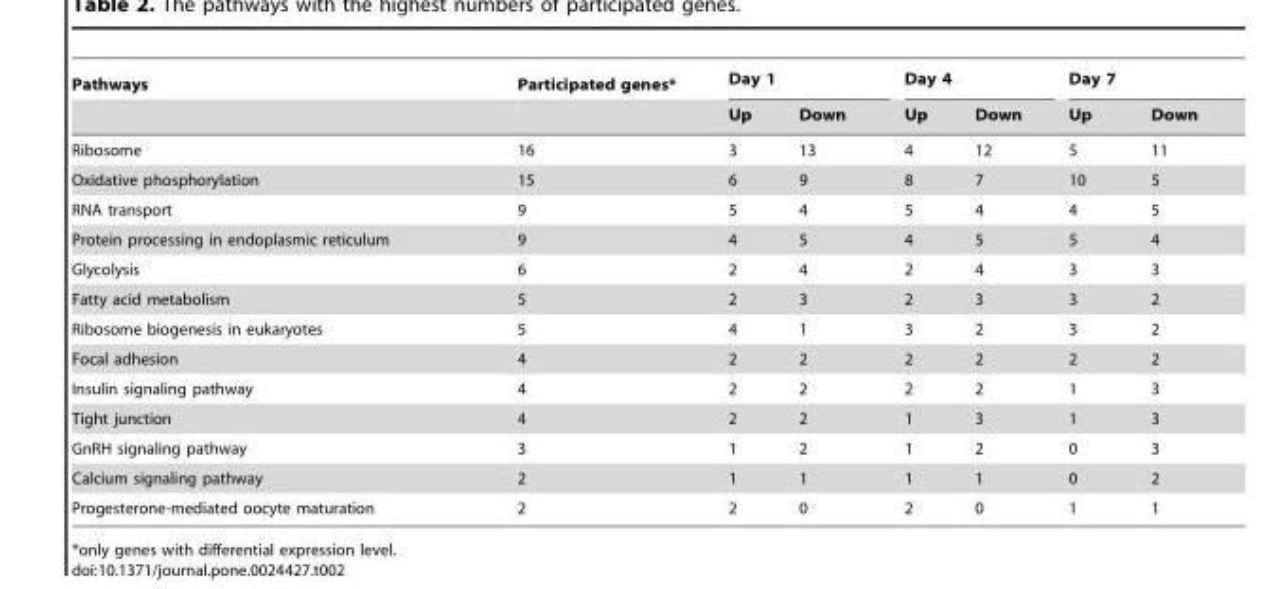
<table><thead><tr><td rowspan="2">Pathways</td><td rowspan="2">Participated genes*</td><td colspan="2">Day 1</td><td colspan="2">Day 4</td><td colspan="2">Day 7</td></tr><tr><td>Up</td><td>Down</td><td>Up</td><td>Down</td><td>Up</td><td>Down</td></tr></thead><tbody><tr><td>Ribosome</td><td>16</td><td>3</td><td>13</td><td>4</td><td>12</td><td>5</td><td>11</td></tr><tr><td>Oxidative phosphorylation</td><td>15</td><td>6</td><td>9</td><td>8</td><td>7</td><td>10</td><td>5</td></tr><tr><td>RNA transport</td><td>9</td><td>5</td><td>4</td><td>5</td><td>4</td><td>4</td><td>5</td></tr><tr><td>Protein processing in endoplasmic reticulum</td><td>9</td><td>4</td><td>5</td><td>4</td><td>5</td><td>5</td><td>4</td></tr><tr><td>Glycolysis</td><td>6</td><td>2</td><td>4</td><td>2</td><td>4</td><td>3</td><td>3</td></tr><tr><td>Fatty acid metabolism</td><td>5</td><td>2</td><td>3</td><td>2</td><td>3</td><td>3</td><td>2</td></tr><tr><td>Ribosome biogenesis in eukaryotes</td><td>5</td><td>4</td><td>1</td><td>3</td><td>2</td><td>3</td><td>2</td></tr><tr><td>Focal adhesion</td><td>4</td><td>2</td><td>2</td><td>2</td><td>2</td><td>2</td><td>2</td></tr><tr><td>Insulin signaling pathway</td><td>4</td><td>2</td><td>2</td><td>2</td><td>2</td><td>1</td><td>3</td></tr><tr><td>Tight junction</td><td>4</td><td>2</td><td>2</td><td>1</td><td>3</td><td>1</td><td>3</td></tr><tr><td>GnRH signaling pathway</td><td>3</td><td>1</td><td>2</td><td>1</td><td>2</td><td>0</td><td>3</td></tr><tr><td>Calcium signaling pathway</td><td>2</td><td>1</td><td>1</td><td>1</td><td>1</td><td>0</td><td>2</td></tr><tr><td>Progesterone-mediated oocyte maturation</td><td>2</td><td>2</td><td>0</td><td>2</td><td>0</td><td>1</td><td>1</td></tr></tbody></table>